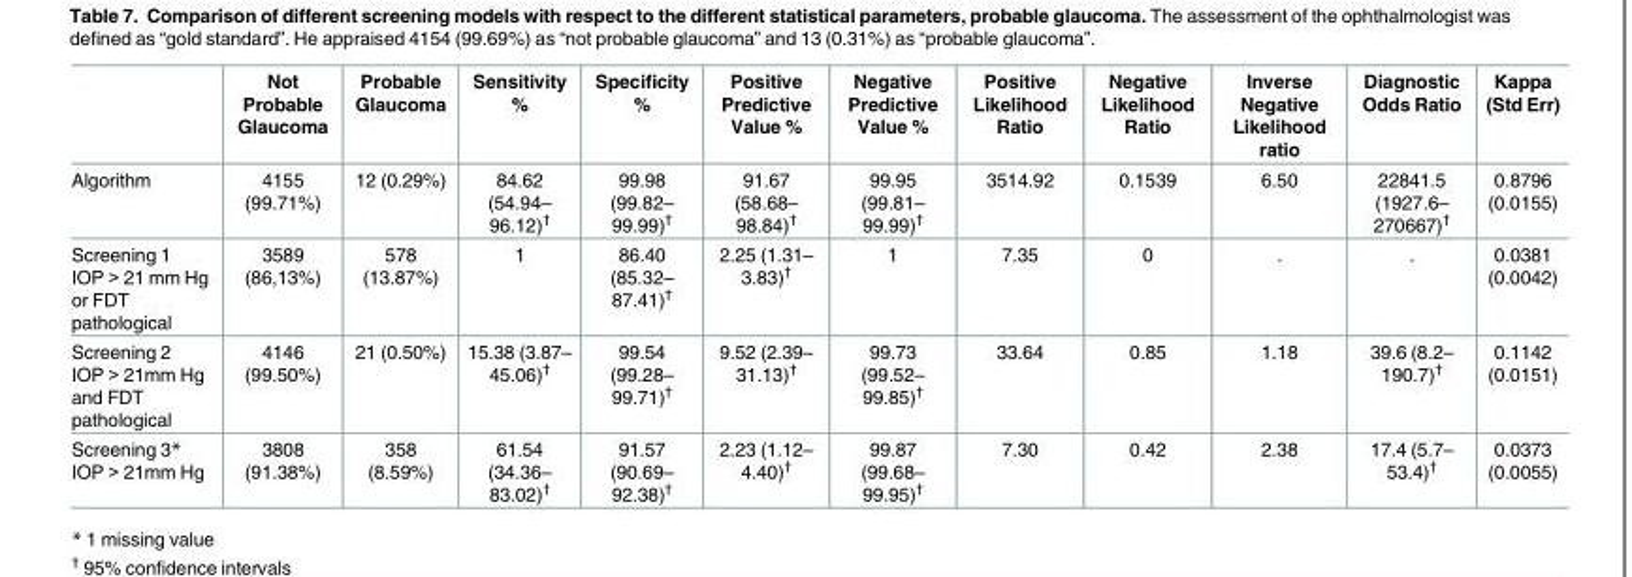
<table><thead><tr><td></td><td>Not Probable Glaucoma</td><td>Probable Glaucoma</td><td>Sensitivity %</td><td>Specificity %</td><td>Positive Predictive Value %</td><td>Negative Predictive Value %</td><td>Positive Likelihood Ratio</td><td>Negative Likelihood Ratio</td><td>Inverse Negative Likelihood ratio</td><td>Diagnostic Odds Ratio</td><td>Kappa (Std Err)</td></tr></thead><tbody><tr><td>Algorithm</td><td>4155 (99.71%)</td><td>12 (0.29%)</td><td>84.62 (54.94– 96.12)<sup>†</sup></td><td>99.98 (99.82– 99.99)<sup>†</sup></td><td>91.67 (58.68– 98.84)<sup>†</sup></td><td>99.95 (99.81– 99.99)<sup>†</sup></td><td>3514.92</td><td>0.1539</td><td>6.50</td><td>22841.5 (1927.6– 270667)<sup>†</sup></td><td>0.8796 (0.0155)</td></tr><tr><td>Screening 1 IOP &gt; 21 mm Hg or FDT pathological</td><td>3589 (86,13%)</td><td>578 (13.87%)</td><td>1</td><td>86.40 (85.32– 87.41)<sup>†</sup></td><td>2.25 (1.31– 3.83)<sup>†</sup></td><td>1</td><td>7.35</td><td>0</td><td>.</td><td>.</td><td>0.0381 (0.0042)</td></tr><tr><td>Screening 2 IOP &gt; 21mm Hg and FDT pathological</td><td>4146 (99.50%)</td><td>21 (0.50%)</td><td>15.38 (3.87– 45.06)<sup>†</sup></td><td>99.54 (99.28– 99.71)<sup>†</sup></td><td>9.52 (2.39– 31.13)<sup>†</sup></td><td>99.73 (99.52– 99.85)<sup>†</sup></td><td>33.64</td><td>0.85</td><td>1.18</td><td>39.6 (8.2– 190.7)<sup>†</sup></td><td>0.1142 (0.0151)</td></tr><tr><td>Screening 3* IOP &gt; 21mm Hg</td><td>3808 (91.38%)</td><td>358 (8.59%)</td><td>61.54 (34.36– 83.02)<sup>†</sup></td><td>91.57 (90.69– 92.38)<sup>†</sup></td><td>2.23 (1.12– 4.40)<sup>†</sup></td><td>99.87 (99.68– 99.95)<sup>†</sup></td><td>7.30</td><td>0.42</td><td>2.38</td><td>17.4 (5.7– 53.4)<sup>†</sup></td><td>0.0373 (0.0055)</td></tr></tbody></table>